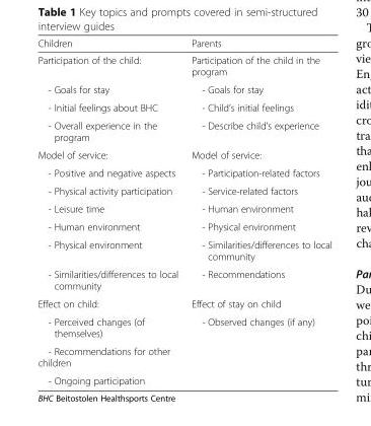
<table><thead><tr><td>Children</td><td>Parents</td></tr></thead><tbody><tr><td>Participation of the child:</td><td>Participation of the child in the program</td></tr><tr><td>- Goals for stay</td><td>- Goals for stay</td></tr><tr><td>- Initial feelings about BHC</td><td>- Child’s initial feelings</td></tr><tr><td>- Overall experience in the program</td><td>- Describe child’s experience</td></tr><tr><td>Model of service:</td><td>Model of service:</td></tr><tr><td>- Positive and negative aspects</td><td>- Participation-related factors</td></tr><tr><td>- Physical activity participation</td><td>- Service-related factors</td></tr><tr><td>- Leisure time</td><td>- Human environment</td></tr><tr><td>- Human environment</td><td>- Physical environment</td></tr><tr><td>- Physical environment</td><td>- Similarities/differences to local community</td></tr><tr><td>- Similarities/differences to local community</td><td>- Recommendations</td></tr><tr><td>Effect on child:</td><td>Effect of stay on child</td></tr><tr><td>- Perceived changes (of themselves)</td><td rowspan="3">- Observed changes (if any)</td></tr><tr><td>- Recommendations for other children</td></tr><tr><td>- Ongoing participation</td></tr></tbody></table>